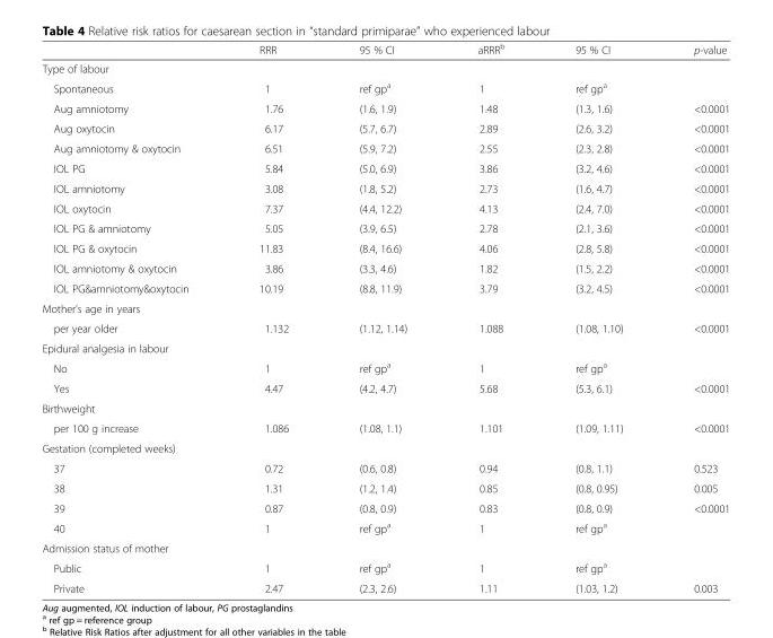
<table><thead><tr><td></td><td>RRR</td><td>95 % CI</td><td>aRRR<sup>b</sup></td><td>95 % CI</td><td>p-value</td></tr></thead><tbody><tr><td colspan="6">Type of labour</td></tr><tr><td>Spontaneous</td><td>1</td><td>ref gp<sup>a</sup></td><td>1</td><td>ref gp<sup>a</sup></td><td></td></tr><tr><td>Aug amniotomy</td><td>1.76</td><td>(1.6, 1.9)</td><td>1.48</td><td>(1.3, 1.6)</td><td>&lt;0.0001</td></tr><tr><td>Aug oxytocin</td><td>6.17</td><td>(5.7, 6.7)</td><td>2.89</td><td>(2.6, 3.2)</td><td>&lt;0.0001</td></tr><tr><td>Aug amniotomy &amp; oxytocin</td><td>6.51</td><td>(5.9, 7.2)</td><td>2.55</td><td>(2.3, 2.8)</td><td>&lt;0.0001</td></tr><tr><td>IOL PG</td><td>5.84</td><td>(5.0, 6.9)</td><td>3.86</td><td>(3.2, 4.6)</td><td>&lt;0.0001</td></tr><tr><td>IOL amniotomy</td><td>3.08</td><td>(1.8, 5.2)</td><td>2.73</td><td>(1.6, 4.7)</td><td>&lt;0.0001</td></tr><tr><td>IOL oxytocin</td><td>7.37</td><td>(4.4, 12.2)</td><td>4.13</td><td>(2.4, 7.0)</td><td>&lt;0.0001</td></tr><tr><td>IOL PG &amp; amniotomy</td><td>5.05</td><td>(3.9, 6.5)</td><td>2.78</td><td>(2.1, 3.6)</td><td>&lt;0.0001</td></tr><tr><td>IOL PG &amp; oxytocin</td><td>11.83</td><td>(8.4, 16.6)</td><td>4.06</td><td>(2.8, 5.8)</td><td>&lt;0.0001</td></tr><tr><td>IOL amniotomy &amp; oxytocin</td><td>3.86</td><td>(3.3, 4.6)</td><td>1.82</td><td>(1.5, 2.2)</td><td>&lt;0.0001</td></tr><tr><td>IOL PG&amp;amniotomy&amp;oxytocin</td><td>10.19</td><td>(8.8, 11.9)</td><td>3.79</td><td>(3.2, 4.5)</td><td>&lt;0.0001</td></tr><tr><td colspan="6">Mother’s age in years</td></tr><tr><td>per year older</td><td>1.132</td><td>(1.12, 1.14)</td><td>1.088</td><td>(1.08, 1.10)</td><td>&lt;0.0001</td></tr><tr><td colspan="6">Epidural analgesia in labour</td></tr><tr><td>No</td><td>1</td><td>ref gp<sup>a</sup></td><td>1</td><td>ref gp<sup>a</sup></td><td></td></tr><tr><td>Yes</td><td>4.47</td><td>(4.2, 4.7)</td><td>5.68</td><td>(5.3, 6.1)</td><td>&lt;0.0001</td></tr><tr><td colspan="6">Birthweight</td></tr><tr><td>per 100 g increase</td><td>1.086</td><td>(1.08, 1.1)</td><td>1.101</td><td>(1.09, 1.11)</td><td>&lt;0.0001</td></tr><tr><td colspan="6">Gestation (completed weeks)</td></tr><tr><td>37</td><td>0.72</td><td>(0.6, 0.8)</td><td>0.94</td><td>(0.8, 1.1)</td><td>0.523</td></tr><tr><td>38</td><td>1.31</td><td>(1.2, 1.4)</td><td>0.85</td><td>(0.8, 0.95)</td><td>0.005</td></tr><tr><td>39</td><td>0.87</td><td>(0.8, 0.9)</td><td>0.83</td><td>(0.8, 0.9)</td><td>&lt;0.0001</td></tr><tr><td>40</td><td>1</td><td>ref gp<sup>a</sup></td><td>1</td><td>ref gp<sup>a</sup></td><td></td></tr><tr><td colspan="6">Admission status of mother</td></tr><tr><td>Public</td><td>1</td><td>ref gp<sup>a</sup></td><td>1</td><td>ref gp<sup>a</sup></td><td></td></tr><tr><td>Private</td><td>2.47</td><td>(2.3, 2.6)</td><td>1.11</td><td>(1.03, 1.2)</td><td>0.003</td></tr></tbody></table>